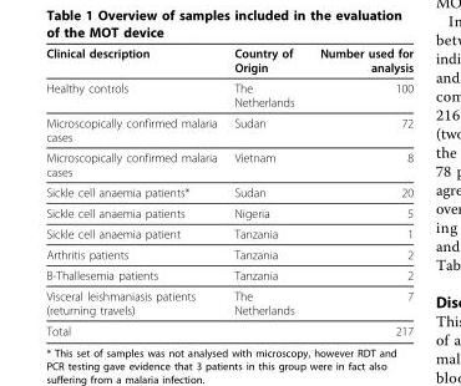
<table><thead><tr><td>Clinical description</td><td>Country of Origin</td><td>Number used for analysis</td></tr></thead><tbody><tr><td>Healthy controls</td><td>The Netherlands</td><td>100</td></tr><tr><td>Microscopically confirmed malaria cases</td><td>Sudan</td><td>72</td></tr><tr><td>Microscopically confirmed malaria cases</td><td>Vietnam</td><td>8</td></tr><tr><td>Sickle cell anaemia patients*</td><td>Sudan</td><td>20</td></tr><tr><td>Sickle cell anaemia patients</td><td>Nigeria</td><td>5</td></tr><tr><td>Sickle cell anaemia patient</td><td>Tanzania</td><td>1</td></tr><tr><td>Arthritis patients</td><td>Tanzania</td><td>2</td></tr><tr><td>B-Thallesemia patients</td><td>Tanzania</td><td>2</td></tr><tr><td>Visceral leishmaniasis patients (returning travels)</td><td>The Netherlands</td><td>7</td></tr><tr><td>Total</td><td></td><td>217</td></tr></tbody></table>